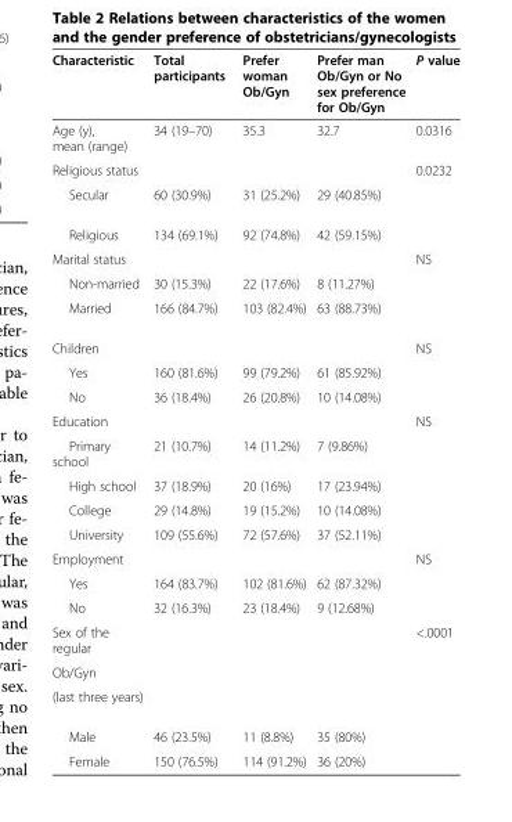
<table><thead><tr><td>Characteristic</td><td>Total participants</td><td>Prefer woman Ob/Gyn</td><td>Prefer man Ob/Gyn or No sex preference for Ob/Gyn</td><td>P value</td></tr></thead><tbody><tr><td>Age (y), mean (range)</td><td>34 (19–70)</td><td>35.3</td><td>32.7</td><td>0.0316</td></tr><tr><td>Religious status</td><td></td><td></td><td></td><td>0.0232</td></tr><tr><td>Secular</td><td>60 (30.9%)</td><td>31 (25.2%)</td><td>29 (40.85%)</td><td></td></tr><tr><td>Religious</td><td>134 (69.1%)</td><td>92 (74.8%)</td><td>42 (59.15%)</td><td></td></tr><tr><td>Marital status</td><td></td><td></td><td></td><td>NS</td></tr><tr><td>Non-married</td><td>30 (15.3%)</td><td>22 (17.6%)</td><td>8 (11.27%)</td><td></td></tr><tr><td>Married</td><td>166 (84.7%)</td><td>103 (82.4%)</td><td>63 (88.73%)</td><td></td></tr><tr><td>Children</td><td></td><td></td><td></td><td>NS</td></tr><tr><td>Yes</td><td>160 (81.6%)</td><td>99 (79.2%)</td><td>61 (85.92%)</td><td></td></tr><tr><td>No</td><td>36 (18.4%)</td><td>26 (20.8%)</td><td>10 (14.08%)</td><td></td></tr><tr><td>Education</td><td></td><td></td><td></td><td>NS</td></tr><tr><td>Primary school</td><td>21 (10.7%)</td><td>14 (11.2%)</td><td>7 (9.86%)</td><td></td></tr><tr><td>High school</td><td>37 (18.9%)</td><td>20 (16%)</td><td>17 (23.94%)</td><td></td></tr><tr><td>College</td><td>29 (14.8%)</td><td>19 (15.2%)</td><td>10 (14.08%)</td><td></td></tr><tr><td>University</td><td>109 (55.6%)</td><td>72 (57.6%)</td><td>37 (52.11%)</td><td></td></tr><tr><td>Employment</td><td></td><td></td><td></td><td>NS</td></tr><tr><td>Yes</td><td>164 (83.7%)</td><td>102 (81.6%)</td><td>62 (87.32%)</td><td></td></tr><tr><td>No</td><td>32 (16.3%)</td><td>23 (18.4%)</td><td>9 (12.68%)</td><td></td></tr><tr><td>Sex of the regular</td><td></td><td></td><td></td><td>&lt;.0001</td></tr><tr><td colspan="5">Ob/Gyn</td></tr><tr><td colspan="5">(last three years)</td></tr><tr><td>Male</td><td>46 (23.5%)</td><td>11 (8.8%)</td><td>35 (80%)</td><td></td></tr><tr><td>Female</td><td>150 (76.5%)</td><td>114 (91.2%)</td><td>36 (20%)</td><td></td></tr></tbody></table>